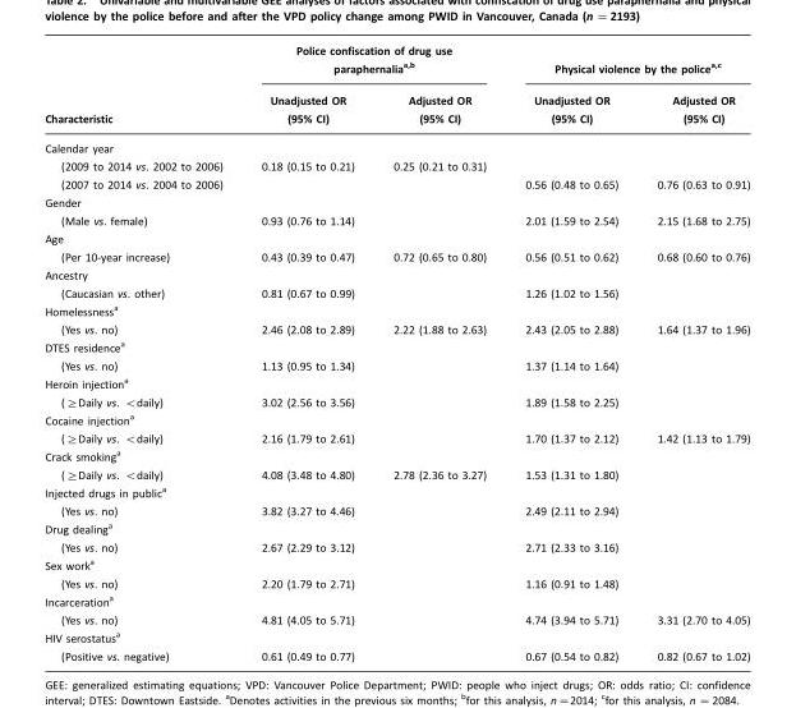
<table><thead><tr><td rowspan="2">Characteristic</td><td colspan="2">Police confiscation of drug use paraphernalia<sup>a</sup>,<sup>b</sup></td><td colspan="2">Physical violence by the police<sup>a</sup>,<sup>c</sup></td></tr><tr><td>Unadjusted OR (95% CI)</td><td>Adjusted OR (95% CI)</td><td>Unadjusted OR (95% CI)</td><td>Adjusted OR (95% CI)</td></tr></thead><tbody><tr><td>Calendar year (2009 to 2014 vs. 2002 to 2006) (2007 to 2014 vs. 2004 to 2006)</td><td>0.18 (0.15 to 0.21)</td><td>0.25 (0.21 to 0.31)</td><td>0.56 (0.48 to 0.65)</td><td>0.76 (0.63 to 0.91)</td></tr><tr><td>Gender (Male vs. female)</td><td>0.93 (0.76 to 1.14)</td><td></td><td>2.01 (1.59 to 2.54)</td><td>2.15 (1.68 to 2.75)</td></tr><tr><td>Age (Per 10-year increase)</td><td>0.43 (0.39 to 0.47)</td><td>0.72 (0.65 to 0.80)</td><td>0.56 (0.51 to 0.62)</td><td>0.68 (0.60 to 0.76)</td></tr><tr><td>Ancestry (Caucasian vs. other)</td><td>0.81 (0.67 to 0.99)</td><td></td><td>1.26 (1.02 to 1.56)</td><td></td></tr><tr><td>Homelessness<sup>a</sup> (Yes vs. no)</td><td>2.46 (2.08 to 2.89)</td><td>2.22 (1.88 to 2.63)</td><td>2.43 (2.05 to 2.88)</td><td>1.64 (1.37 to 1.96)</td></tr><tr><td>DTES residence<sup>a</sup> (Yes vs. no)</td><td>1.13 (0.95 to 1.34)</td><td></td><td>1.37 (1.14 to 1.64)</td><td></td></tr><tr><td>Heroin injection<sup>a</sup> (≥Daily vs. &lt;daily)</td><td>3.02 (2.56 to 3.56)</td><td></td><td>1.89 (1.58 to 2.25)</td><td></td></tr><tr><td>Cocaine injection<sup>a</sup> (≥Daily vs. &lt;daily)</td><td>2.16 (1.79 to 2.61)</td><td></td><td>1.70 (1.37 to 2.12)</td><td>1.42 (1.13 to 1.79)</td></tr><tr><td>Crack smoking<sup>a</sup> (≥Daily vs. &lt;daily)</td><td>4.08 (3.48 to 4.80)</td><td>2.78 (2.36 to 3.27)</td><td>1.53 (1.31 to 1.80)</td><td></td></tr><tr><td>Injected drugs in public<sup>a</sup> (Yes vs. no)</td><td>3.82 (3.27 to 4.46)</td><td></td><td>2.49 (2.11 to 2.94)</td><td></td></tr><tr><td>Drug dealing<sup>a</sup> (Yes vs. no)</td><td>2.67 (2.29 to 3.12)</td><td></td><td>2.71 (2.33 to 3.16)</td><td></td></tr><tr><td>Sex work<sup>a</sup> (Yes vs. no)</td><td>2.20 (1.79 to 2.71)</td><td></td><td>1.16 (0.91 to 1.48)</td><td></td></tr><tr><td>Incarceration<sup>a</sup> (Yes vs. no)</td><td>4.81 (4.05 to 5.71)</td><td></td><td>4.74 (3.94 to 5.71)</td><td>3.31 (2.70 to 4.05)</td></tr><tr><td>HIV serostatus<sup>a</sup> (Positive vs. negative)</td><td>0.61 (0.49 to 0.77)</td><td></td><td>0.67 (0.54 to 0.82)</td><td>0.82 (0.67 to 1.02)</td></tr></tbody></table>